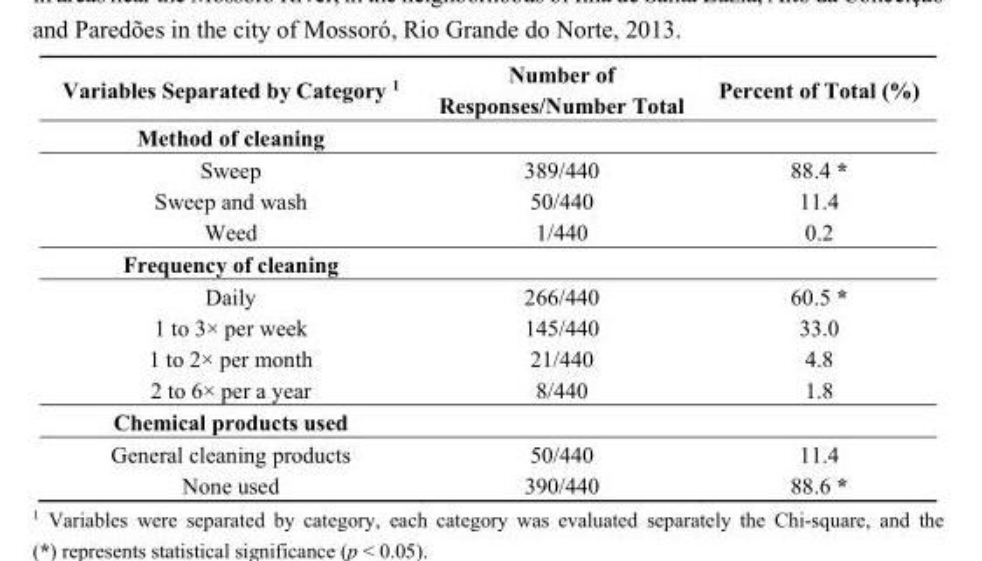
<table><thead><tr><td>Variables Separated by Category <sup>1</sup></td><td>Number of Responses/Number Total</td><td>Percent of Total (%)</td></tr></thead><tbody><tr><td colspan="3">Method of cleaning</td></tr><tr><td>Sweep</td><td>389/440</td><td>88.4 *</td></tr><tr><td>Sweep and wash</td><td>50/440</td><td>11.4</td></tr><tr><td>Weed</td><td>1/440</td><td>0.2</td></tr><tr><td colspan="3">Frequency of cleaning</td></tr><tr><td>Daily</td><td>266/440</td><td>60.5 *</td></tr><tr><td>1 to 3× per week</td><td>145/440</td><td>33.0</td></tr><tr><td>1 to 2× per month</td><td>21/440</td><td>4.8</td></tr><tr><td>2 to 6× per a year</td><td>8/440</td><td>1.8</td></tr><tr><td colspan="3">Chemical products used</td></tr><tr><td>General cleaning products</td><td>50/440</td><td>11.4</td></tr><tr><td>None used</td><td>390/440</td><td>88.6 *</td></tr></tbody></table>